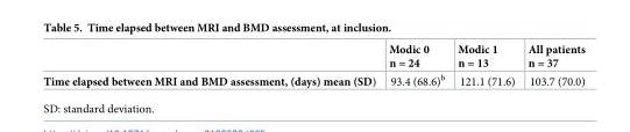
<table><thead><tr><td></td><td>Modic 0 n = 24</td><td>Modic 1 n = 13</td><td>All patients n = 37</td></tr></thead><tbody><tr><td>Time elapsed between MRI and BMD assessment, (days) mean (SD)</td><td>93.4 (68.6)<sup>b</sup></td><td>121.1 (71.6)</td><td>103.7 (70.0)</td></tr></tbody></table>